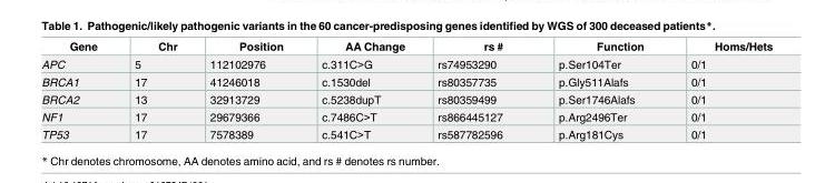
<table><thead><tr><td>Gene</td><td>Chr</td><td>Position</td><td>AA Change</td><td>rs #</td><td>Function</td><td>Homs/Hets</td></tr></thead><tbody><tr><td>APC</td><td>5</td><td>112102976</td><td>c.311C&gt;G</td><td>rs74953290</td><td>p.Ser104Ter</td><td>0/1</td></tr><tr><td>BRCA1</td><td>17</td><td>41246018</td><td>c.1530del</td><td>rs80357735</td><td>p.Gly511Alafs</td><td>0/1</td></tr><tr><td>BRCA2</td><td>13</td><td>32913729</td><td>c.5238dupT</td><td>rs80359499</td><td>p.Ser1746Alafs</td><td>0/1</td></tr><tr><td>NF1</td><td>17</td><td>29679366</td><td>c.7486C&gt;T</td><td>rs866445127</td><td>p.Arg2496Ter</td><td>0/1</td></tr><tr><td>TP53</td><td>17</td><td>7578389</td><td>c.541C&gt;T</td><td>rs587782596</td><td>p.Arg181Cys</td><td>0/1</td></tr></tbody></table>